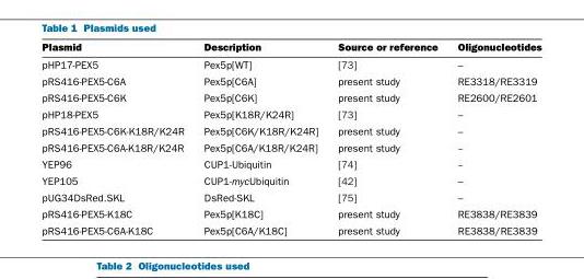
<table><thead><tr><td>Plasmid</td><td>Description</td><td>Source or reference</td><td>Oligonucleotides</td></tr></thead><tbody><tr><td>pHP17-PEX5</td><td>Pex5p[WT]</td><td>[73]</td><td>–</td></tr><tr><td>pRS416-PEX5-C6A</td><td>Pex5p[C6A]</td><td>present study</td><td>RE3318/RE3319</td></tr><tr><td>pRS416-PEX5-C6K</td><td>Pex5p[C6K]</td><td>present study</td><td>RE2600/RE2601</td></tr><tr><td>pHP18-PEX5</td><td>Pex5p[K18R/K24R]</td><td>[73]</td><td>–</td></tr><tr><td>pRS416-PEX5-C6K-K18R/K24R</td><td>Pex5p[C6K/K18R/K24R]</td><td>present study</td><td>–</td></tr><tr><td>pRS416-PEX5-C6A-K18R/K24R</td><td>Pex5p[C6A/K18R/K24R]</td><td>present study</td><td>–</td></tr><tr><td>YEP96</td><td>CUP1-Ubiquitin</td><td>[74]</td><td>–</td></tr><tr><td>YEP105</td><td>CUP1-mycUbiquitin</td><td>[42]</td><td>–</td></tr><tr><td>pUG34DsRed.SKL</td><td>DsRed-SKL</td><td>[75]</td><td>–</td></tr><tr><td>pRS416-PEX5-K18C</td><td>Pex5p[K18C]</td><td>present study</td><td>RE3838/RE3839</td></tr><tr><td>pRS416-PEX5-C6A-K18C</td><td>Pex5p[C6A/K18C]</td><td>present study</td><td>RE3838/RE3839</td></tr></tbody></table>